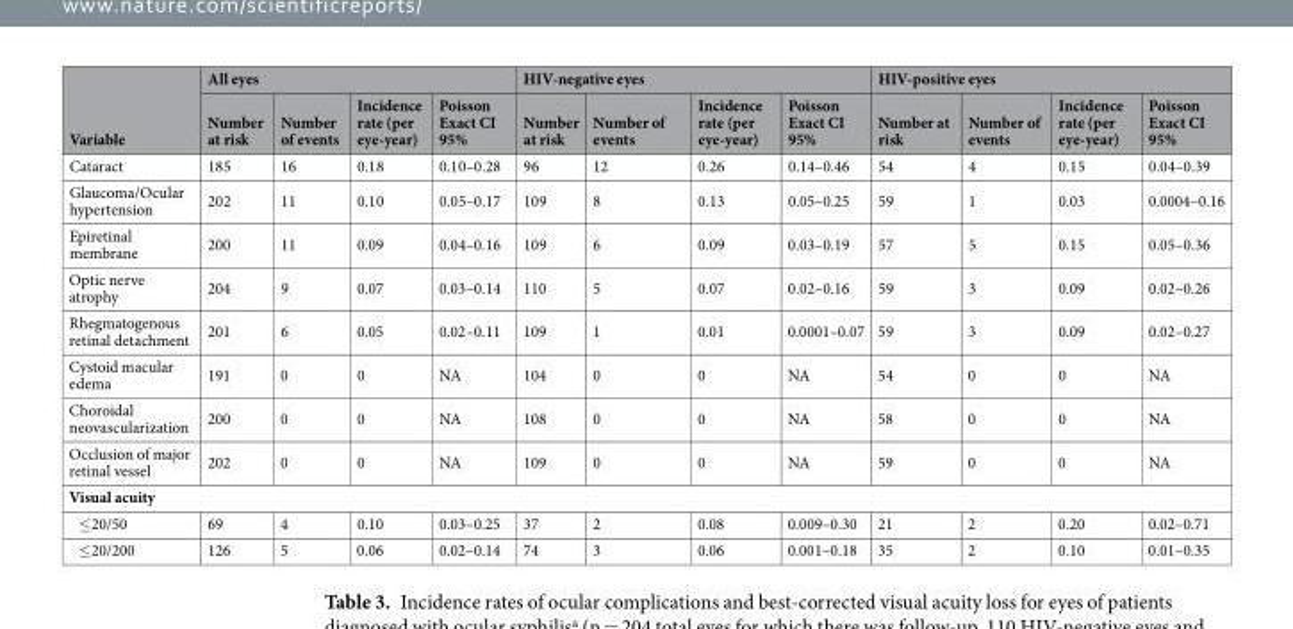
<table><thead><tr><td rowspan="2">Variable</td><td colspan="4">All eyes</td><td colspan="4">HIV-negative eyes</td><td colspan="4">HIV-positive eyes</td></tr><tr><td>Number at risk</td><td>Number of events</td><td>Incidence rate (per eye-year)</td><td>Poisson Exact CI 95%</td><td>Number at risk</td><td>Number of events</td><td>Incidence rate (per eye-year)</td><td>Poisson Exact CI 95%</td><td>Number at risk</td><td>Number of events</td><td>Incidence rate (per eye-year)</td><td>Poisson Exact CI 95%</td></tr></thead><tbody><tr><td>Cataract</td><td>185</td><td>16</td><td>0.18</td><td>0.10–0.28</td><td>96</td><td>12</td><td>0.26</td><td>0.14–0.46</td><td>54</td><td>4</td><td>0.15</td><td>0.04–0.39</td></tr><tr><td>Glaucoma/Ocular hypertension</td><td>202</td><td>11</td><td>0.10</td><td>0.05–0.17</td><td>109</td><td>8</td><td>0.13</td><td>0.05–0.25</td><td>59</td><td>1</td><td>0.03</td><td>0.0004–0.16</td></tr><tr><td>Epiretinal membrane</td><td>200</td><td>11</td><td>0.09</td><td>0.04–0.16</td><td>109</td><td>6</td><td>0.09</td><td>0.03–0.19</td><td>57</td><td>5</td><td>0.15</td><td>0.05–0.36</td></tr><tr><td>Optic nerve atrophy</td><td>204</td><td>9</td><td>0.07</td><td>0.03–0.14</td><td>110</td><td>5</td><td>0.07</td><td>0.02–0.16</td><td>59</td><td>3</td><td>0.09</td><td>0.02–0.26</td></tr><tr><td>Rhegmatogenous retinal detachment</td><td>201</td><td>6</td><td>0.05</td><td>0.02–0.11</td><td>109</td><td>1</td><td>0.01</td><td>0.0001–0.07</td><td>59</td><td>3</td><td>0.09</td><td>0.02–0.27</td></tr><tr><td>Cystoid macular edema</td><td>191</td><td>0</td><td>0</td><td>NA</td><td>104</td><td>0</td><td>0</td><td>NA</td><td>54</td><td>0</td><td>0</td><td>NA</td></tr><tr><td>Choroidal neovascularization</td><td>200</td><td>0</td><td>0</td><td>NA</td><td>108</td><td>0</td><td>0</td><td>NA</td><td>58</td><td>0</td><td>0</td><td>NA</td></tr><tr><td>Occlusion of major retinal vessel</td><td>202</td><td>0</td><td>0</td><td>NA</td><td>109</td><td>0</td><td>0</td><td>NA</td><td>59</td><td>0</td><td>0</td><td>NA</td></tr><tr><td colspan="13">Visual acuity</td></tr><tr><td>≤20/50</td><td>69</td><td>4</td><td>0.10</td><td>0.03–0.25</td><td>37</td><td>2</td><td>0.08</td><td>0.009–0.30</td><td>21</td><td>2</td><td>0.20</td><td>0.02–0.71</td></tr><tr><td>≤20/200</td><td>126</td><td>5</td><td>0.06</td><td>0.02–0.14</td><td>74</td><td>3</td><td>0.06</td><td>0.001–0.18</td><td>35</td><td>2</td><td>0.10</td><td>0.01–0.35</td></tr></tbody></table>